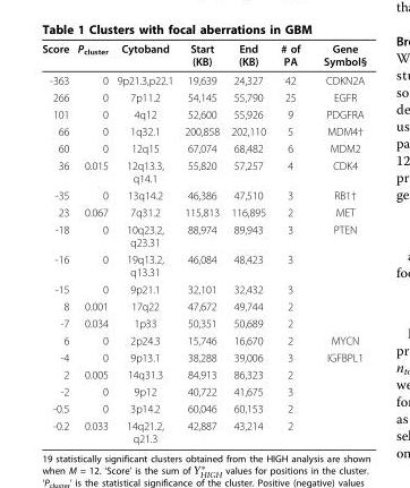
<table><thead><tr><td>Score</td><td>P<sub>cluster</sub></td><td>Cytoband</td><td>Start (KB)</td><td>End (KB)</td><td># of PA</td><td>Gene Symbol§</td></tr></thead><tbody><tr><td>-363</td><td>0</td><td>9p21.3,p22.1</td><td>19,639</td><td>24,327</td><td>42</td><td>CDKN2A</td></tr><tr><td>266</td><td>0</td><td>7p11.2</td><td>54,145</td><td>55,790</td><td>25</td><td>EGFR</td></tr><tr><td>101</td><td>0</td><td>4q12</td><td>52,600</td><td>55,926</td><td>9</td><td>PDGFRA</td></tr><tr><td>66</td><td>0</td><td>1q32.1</td><td>200,858</td><td>202,110</td><td>5</td><td>MDM4†</td></tr><tr><td>60</td><td>0</td><td>12q15</td><td>67,074</td><td>68,482</td><td>6</td><td>MDM2</td></tr><tr><td>36</td><td>0.015</td><td>12q13.3, q14.1</td><td>55,820</td><td>57,257</td><td>4</td><td>CDK4</td></tr><tr><td>-35</td><td>0</td><td>13q14.2</td><td>46,386</td><td>47,510</td><td>3</td><td>RB1†</td></tr><tr><td>23</td><td>0.067</td><td>7q31.2</td><td>115,813</td><td>116,895</td><td>2</td><td>MET</td></tr><tr><td>-18</td><td>0</td><td>10q23.2, q23.31</td><td>88,974</td><td>89,943</td><td>3</td><td>PTEN</td></tr><tr><td>-16</td><td>0</td><td>19q13.2, q13.31</td><td>46,084</td><td>48,423</td><td>3</td><td></td></tr><tr><td>-15</td><td>0</td><td>9p21.1</td><td>32,101</td><td>32,432</td><td>3</td><td></td></tr><tr><td>8</td><td>0.001</td><td>17q22</td><td>47,672</td><td>49,744</td><td>2</td><td></td></tr><tr><td>-7</td><td>0.034</td><td>1p33</td><td>50,351</td><td>50,689</td><td>2</td><td></td></tr><tr><td>6</td><td>0</td><td>2p24.3</td><td>15,746</td><td>16,670</td><td>2</td><td>MYCN</td></tr><tr><td>-4</td><td>0</td><td>9p13.1</td><td>38,288</td><td>39,006</td><td>3</td><td>IGFBPL1</td></tr><tr><td>2</td><td>0.005</td><td>14q31.3</td><td>84,913</td><td>86,323</td><td>2</td><td></td></tr><tr><td>-2</td><td>0</td><td>9p12</td><td>40,722</td><td>41,675</td><td>3</td><td></td></tr><tr><td>-0.5</td><td>0</td><td>3p14.2</td><td>60,046</td><td>60,153</td><td>2</td><td></td></tr><tr><td>-0.2</td><td>0.033</td><td>14q21.2, q21.3</td><td>42,887</td><td>43,214</td><td>2</td><td></td></tr></tbody></table>